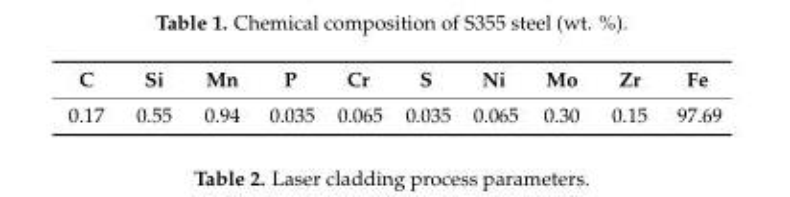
<table><thead><tr><td>C</td><td>Si</td><td>Mn</td><td>P</td><td>Cr</td><td>S</td><td>Ni</td><td>Mo</td><td>Zr</td><td>Fe</td></tr></thead><tbody><tr><td>0.17</td><td>0.55</td><td>0.94</td><td>0.035</td><td>0.065</td><td>0.035</td><td>0.065</td><td>0.30</td><td>0.15</td><td>97.69</td></tr></tbody></table>